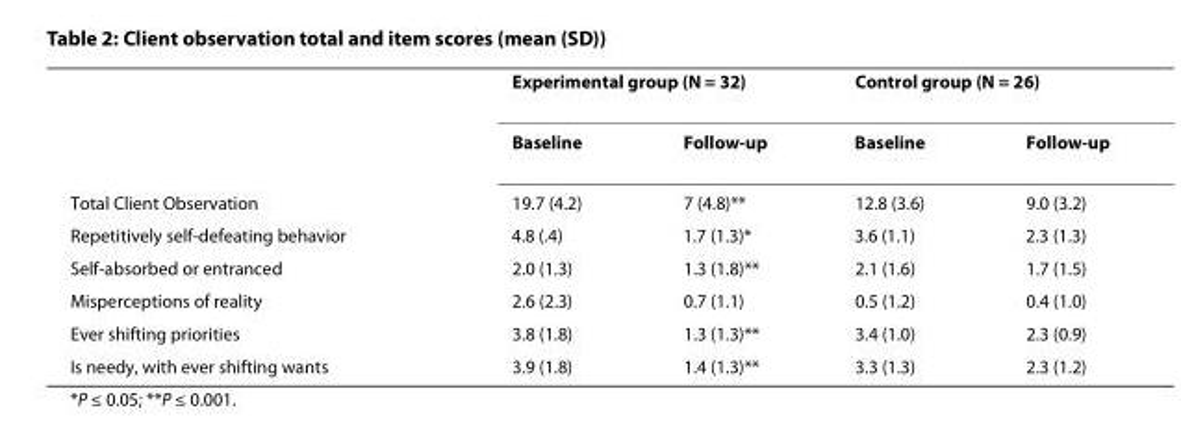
<table><thead><tr><td rowspan="2"></td><td colspan="2">Experimental group (N = 32)</td><td colspan="2">Control group (N = 26)</td></tr><tr><td>Baseline</td><td>Follow-up</td><td>Baseline</td><td>Follow-up</td></tr></thead><tbody><tr><td>Total Client Observation</td><td>19.7 (4.2)</td><td>7 (4.8)**</td><td>12.8 (3.6)</td><td>9.0 (3.2)</td></tr><tr><td>Repetitively self-defeating behavior</td><td>4.8 (.4)</td><td>1.7 (1.3)*</td><td>3.6 (1.1)</td><td>2.3 (1.3)</td></tr><tr><td>Self-absorbed or entranced</td><td>2.0 (1.3)</td><td>1.3 (1.8)**</td><td>2.1 (1.6)</td><td>1.7 (1.5)</td></tr><tr><td>Misperceptions of reality</td><td>2.6 (2.3)</td><td>0.7 (1.1)</td><td>0.5 (1.2)</td><td>0.4 (1.0)</td></tr><tr><td>Ever shifting priorities</td><td>3.8 (1.8)</td><td>1.3 (1.3)**</td><td>3.4 (1.0)</td><td>2.3 (0.9)</td></tr><tr><td>Is needy, with ever shifting wants</td><td>3.9 (1.8)</td><td>1.4 (1.3)**</td><td>3.3 (1.3)</td><td>2.3 (1.2)</td></tr></tbody></table>